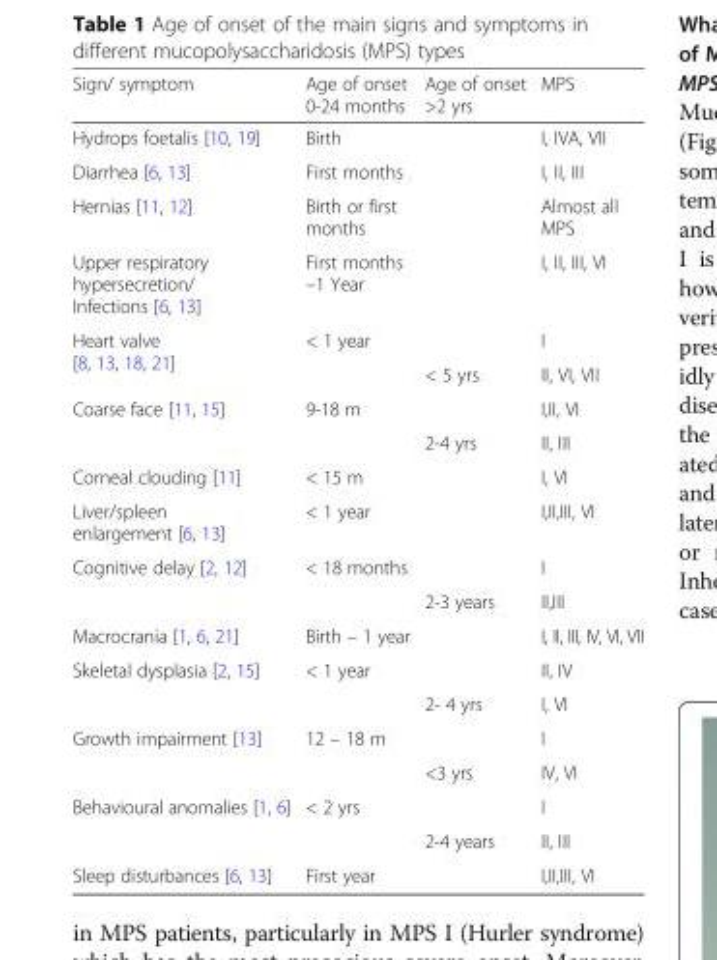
<table><thead><tr><td>Sign/ symptom</td><td>Age of onset 0-24 months</td><td>Age of onset &gt;2 yrs</td><td>MPS</td></tr></thead><tbody><tr><td>Hydrops foetalis [10, 19]</td><td>Birth</td><td></td><td>I, IVA, VII</td></tr><tr><td>Diarrhea [6, 13]</td><td>First months</td><td></td><td>I, II, III</td></tr><tr><td>Hernias [11, 12]</td><td>Birth or first months</td><td></td><td>Almost all MPS</td></tr><tr><td>Upper respiratory hypersecretion/ Infections [6, 13]</td><td>First months –1 Year</td><td></td><td>I, II, III, VI</td></tr><tr><td rowspan="2">Heart valve [8, 13, 18, 21]</td><td>&lt; 1 year</td><td></td><td>I</td></tr><tr><td></td><td>&lt; 5 yrs</td><td>II, VI, VII</td></tr><tr><td rowspan="2">Coarse face [11, 15]</td><td>9-18 m</td><td></td><td>I,II, VI</td></tr><tr><td></td><td>2-4 yrs</td><td>II, III</td></tr><tr><td>Corneal clouding [11]</td><td>&lt; 15 m</td><td></td><td>I, VI</td></tr><tr><td>Liver/spleen enlargement [6, 13]</td><td>&lt; 1 year</td><td></td><td>I,II,III, VI</td></tr><tr><td rowspan="2">Cognitive delay [2, 12]</td><td>&lt; 18 months</td><td></td><td>I</td></tr><tr><td></td><td>2-3 years</td><td>II,III</td></tr><tr><td>Macrocrania [1, 6, 21]</td><td>Birth – 1 year</td><td></td><td>I, II, III, IV, VI, VII</td></tr><tr><td rowspan="2">Skeletal dysplasia [2, 15]</td><td>&lt; 1 year</td><td></td><td>II, IV</td></tr><tr><td></td><td>2- 4 yrs</td><td>I, VI</td></tr><tr><td rowspan="2">Growth impairment [13]</td><td>12 – 18 m</td><td></td><td>I</td></tr><tr><td></td><td>&lt;3 yrs</td><td>IV, VI</td></tr><tr><td rowspan="2">Behavioural anomalies [1, 6]</td><td>&lt; 2 yrs</td><td></td><td>I</td></tr><tr><td></td><td>2-4 years</td><td>II, III</td></tr><tr><td>Sleep disturbances [6, 13]</td><td>First year</td><td></td><td>I,II,III, VI</td></tr></tbody></table>